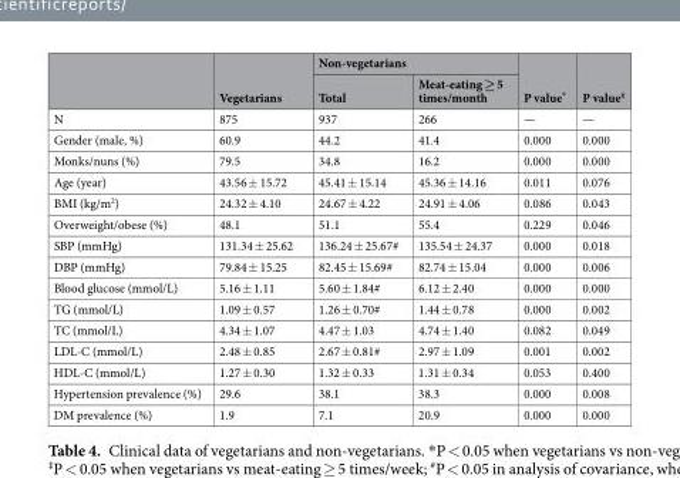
<table><thead><tr><td rowspan="2"></td><td rowspan="2">Vegetarians</td><td colspan="2">Non-vegetarians</td><td rowspan="2">P value*</td><td rowspan="2">P value<sup>‡</sup></td></tr><tr><td>Total</td><td>Meat-eating ≥ 5 times/month</td></tr></thead><tbody><tr><td>N</td><td>875</td><td>937</td><td>266</td><td>—</td><td>—</td></tr><tr><td>Gender (male, %)</td><td>60.9</td><td>44.2</td><td>41.4</td><td>0.000</td><td>0.000</td></tr><tr><td>Monks/nuns (%)</td><td>79.5</td><td>34.8</td><td>16.2</td><td>0.000</td><td>0.000</td></tr><tr><td>Age (year)</td><td>43.56 ± 15.72</td><td>45.41 ± 15.14</td><td>45.36 ± 14.16</td><td>0.011</td><td>0.076</td></tr><tr><td>BMI (kg/m<sup>2</sup>)</td><td>24.32 ± 4.10</td><td>24.67 ± 4.22</td><td>24.91 ± 4.06</td><td>0.086</td><td>0.043</td></tr><tr><td>Overweight/obese (%)</td><td>48.1</td><td>51.1</td><td>55.4</td><td>0.229</td><td>0.046</td></tr><tr><td>SBP (mmHg)</td><td>131.34 ± 25.62</td><td>136.24 ± 25.67#</td><td>135.54 ± 24.37</td><td>0.000</td><td>0.018</td></tr><tr><td>DBP (mmHg)</td><td>79.84 ± 15.25</td><td>82.45 ± 15.69#</td><td>82.74 ± 15.04</td><td>0.000</td><td>0.006</td></tr><tr><td>Blood glucose (mmol/L)</td><td>5.16 ± 1.11</td><td>5.60 ± 1.84#</td><td>6.12 ± 2.40</td><td>0.000</td><td>0.000</td></tr><tr><td>TG (mmol/L)</td><td>1.09 ± 0.57</td><td>1.26 ± 0.70#</td><td>1.44 ± 0.78</td><td>0.000</td><td>0.002</td></tr><tr><td>TC (mmol/L)</td><td>4.34 ± 1.07</td><td>4.47 ± 1.03</td><td>4.74 ± 1.40</td><td>0.082</td><td>0.049</td></tr><tr><td>LDL-C (mmol/L)</td><td>2.48 ± 0.85</td><td>2.67 ± 0.81#</td><td>2.97 ± 1.09</td><td>0.001</td><td>0.002</td></tr><tr><td>HDL-C (mmol/L)</td><td>1.27 ± 0.30</td><td>1.32 ± 0.33</td><td>1.31 ± 0.34</td><td>0.053</td><td>0.400</td></tr><tr><td>Hypertension prevalence (%)</td><td>29.6</td><td>38.1</td><td>38.3</td><td>0.000</td><td>0.008</td></tr><tr><td>DM prevalence (%)</td><td>1.9</td><td>7.1</td><td>20.9</td><td>0.000</td><td>0.000</td></tr></tbody></table>